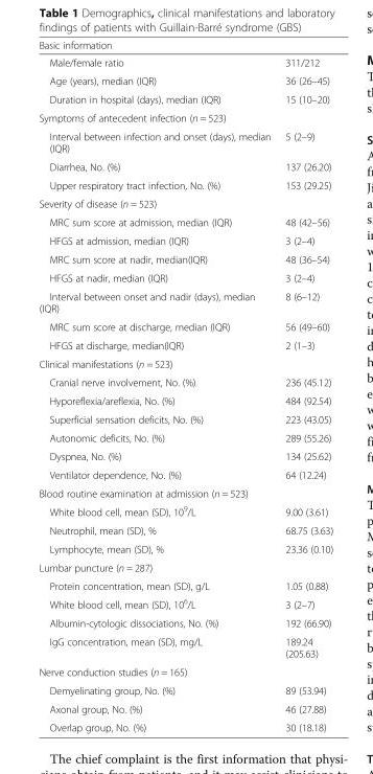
<table><thead><tr><td colspan="2">Basic information</td></tr><tr><td>Male/female ratio</td><td>311/212</td></tr></thead><tbody><tr><td>Age (years), median (IQR)</td><td>36 (26–45)</td></tr><tr><td>Duration in hospital (days), median (IQR)</td><td>15 (10–20)</td></tr><tr><td colspan="2">Symptoms of antecedent infection (n = 523)</td></tr><tr><td>Interval between infection and onset (days), median (IQR)</td><td>5 (2–9)</td></tr><tr><td>Diarrhea, No. (%)</td><td>137 (26.20)</td></tr><tr><td>Upper respiratory tract infection, No. (%)</td><td>153 (29.25)</td></tr><tr><td colspan="2">Severity of disease (n = 523)</td></tr><tr><td>MRC sum score at admission, median (IQR)</td><td>48 (42–56)</td></tr><tr><td>HFGS at admission, median (IQR)</td><td>3 (2–4)</td></tr><tr><td>MRC sum score at nadir, median(IQR)</td><td>48 (36–54)</td></tr><tr><td>HFGS at nadir, median (IQR)</td><td>3 (2–4)</td></tr><tr><td>Interval between onset and nadir (days), median (IQR)</td><td>8 (6–12)</td></tr><tr><td>MRC sum score at discharge, median (IQR)</td><td>56 (49–60)</td></tr><tr><td>HFGS at discharge, median(IQR)</td><td>2 (1–3)</td></tr><tr><td colspan="2">Clinical manifestations (n = 523)</td></tr><tr><td>Cranial nerve involvement, No. (%)</td><td>236 (45.12)</td></tr><tr><td>Hyporeflexia/areflexia, No. (%)</td><td>484 (92.54)</td></tr><tr><td>Superficial sensation deficits, No. (%)</td><td>223 (43.05)</td></tr><tr><td>Autonomic deficits, No. (%)</td><td>289 (55.26)</td></tr><tr><td>Dyspnea, No. (%)</td><td>134 (25.62)</td></tr><tr><td>Ventilator dependence, No. (%)</td><td>64 (12.24)</td></tr><tr><td colspan="2">Blood routine examination at admission (n = 523)</td></tr><tr><td>White blood cell, mean (SD), 10<sup>9</sup>/L</td><td>9.00 (3.61)</td></tr><tr><td>Neutrophil, mean (SD), %</td><td>68.75 (3.63)</td></tr><tr><td>Lymphocyte, mean (SD), %</td><td>23.36 (0.10)</td></tr><tr><td colspan="2">Lumbar puncture (n = 287)</td></tr><tr><td>Protein concentration, mean (SD), g/L</td><td>1.05 (0.88)</td></tr><tr><td>White blood cell, mean (SD), 10<sup>6</sup>/L</td><td>3 (2–7)</td></tr><tr><td>Albumin-cytologic dissociations, No. (%)</td><td>192 (66.90)</td></tr><tr><td>IgG concentration, mean (SD), mg/L</td><td>189.24 (205.63)</td></tr><tr><td colspan="2">Nerve conduction studies (n = 165)</td></tr><tr><td>Demyelinating group, No. (%)</td><td>89 (53.94)</td></tr><tr><td>Axonal group, No. (%)</td><td>46 (27.88)</td></tr><tr><td>Overlap group, No. (%)</td><td>30 (18.18)</td></tr></tbody></table>